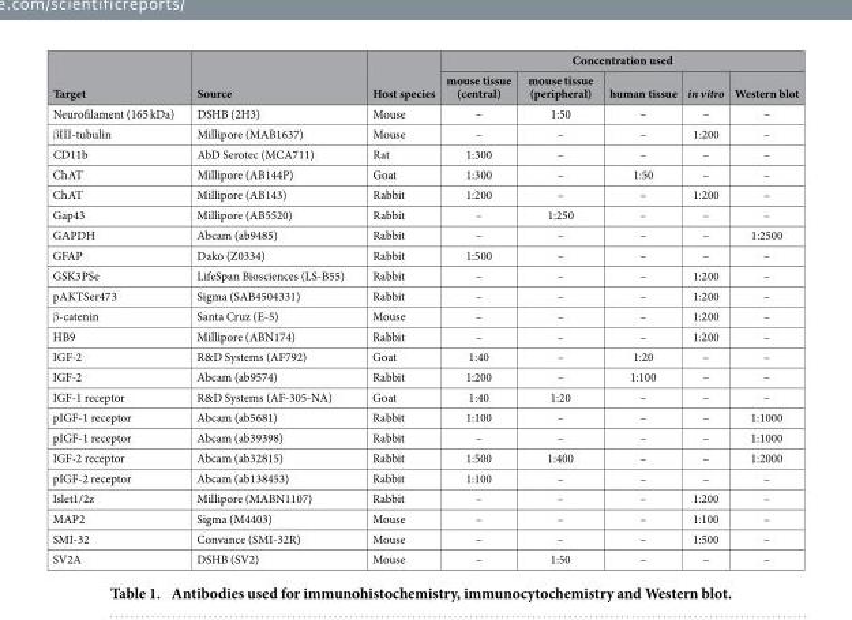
<table><thead><tr><td rowspan="2">Target</td><td rowspan="2">Source</td><td rowspan="2">Host species</td><td colspan="5">Concentration used</td></tr><tr><td>mouse tissue (central)</td><td>mouse tissue (peripheral)</td><td>human tissue</td><td>in vitro</td><td>Western blot</td></tr></thead><tbody><tr><td>Neurofilament (165 kDa)</td><td>DSHB (2H3)</td><td>Mouse</td><td>–</td><td>1:50</td><td>–</td><td>–</td><td>–</td></tr><tr><td>β III-tubulin</td><td>Millipore (MAB1637)</td><td>Mouse</td><td>–</td><td>–</td><td>–</td><td>1:200</td><td>–</td></tr><tr><td>CD11b</td><td>AbD Serotec (MCA711)</td><td>Rat</td><td>1:300</td><td>–</td><td>–</td><td>–</td><td>–</td></tr><tr><td>ChAT</td><td>Millipore (AB144P)</td><td>Goat</td><td>1:300</td><td>–</td><td>1:50</td><td>–</td><td>–</td></tr><tr><td>ChAT</td><td>Millipore (AB143)</td><td>Rabbit</td><td>1:200</td><td>–</td><td>–</td><td>1:200</td><td>–</td></tr><tr><td>Gap43</td><td>Millipore (AB5520)</td><td>Rabbit</td><td>–</td><td>1:250</td><td>–</td><td>–</td><td>–</td></tr><tr><td>GAPDH</td><td>Abcam (ab9485)</td><td>Rabbit</td><td>–</td><td>–</td><td>–</td><td>–</td><td>1:2500</td></tr><tr><td>GFAP</td><td>Dako (Z0334)</td><td>Rabbit</td><td>1:500</td><td>–</td><td>–</td><td>–</td><td>–</td></tr><tr><td>GSK3PSe</td><td>LifeSpan Biosciences (LS-B55)</td><td>Rabbit</td><td>–</td><td>–</td><td>–</td><td>1:200</td><td>–</td></tr><tr><td>pAKTSer473</td><td>Sigma (SAB4504331)</td><td>Rabbit</td><td>–</td><td>–</td><td>–</td><td>1:200</td><td>–</td></tr><tr><td>β -catenin</td><td>Santa Cruz (E-5)</td><td>Mouse</td><td>–</td><td>–</td><td>–</td><td>1:200</td><td>–</td></tr><tr><td>HB9</td><td>Millipore (ABN174)</td><td>Rabbit</td><td>–</td><td>–</td><td>–</td><td>1:200</td><td>–</td></tr><tr><td>IGF-2</td><td>R&amp;D Systems (AF792)</td><td>Goat</td><td>1:40</td><td>–</td><td>1:20</td><td>–</td><td>–</td></tr><tr><td>IGF-2</td><td>Abcam (ab9574)</td><td>Rabbit</td><td>1:200</td><td>–</td><td>1:100</td><td>–</td><td>–</td></tr><tr><td>IGF-1 receptor</td><td>R&amp;D Systems (AF-305-NA)</td><td>Goat</td><td>1:40</td><td>1:20</td><td>–</td><td>–</td><td>–</td></tr><tr><td>pIGF-1 receptor</td><td>Abcam (ab5681)</td><td>Rabbit</td><td>1:100</td><td>–</td><td>–</td><td>–</td><td>1:1000</td></tr><tr><td>pIGF-1 receptor</td><td>Abcam (ab39398)</td><td>Rabbit</td><td>–</td><td>–</td><td>–</td><td>–</td><td>1:1000</td></tr><tr><td>IGF-2 receptor</td><td>Abcam (ab32815)</td><td>Rabbit</td><td>1:500</td><td>1:400</td><td>–</td><td>–</td><td>1:2000</td></tr><tr><td>pIGF-2 receptor</td><td>Abcam (ab138453)</td><td>Rabbit</td><td>1:100</td><td>–</td><td>–</td><td>–</td><td>–</td></tr><tr><td>Islet1/2z</td><td>Millipore (MABN1107)</td><td>Rabbit</td><td>–</td><td>–</td><td>–</td><td>1:200</td><td>–</td></tr><tr><td>MAP2</td><td>Sigma (M4403)</td><td>Mouse</td><td>–</td><td>–</td><td>–</td><td>1:100</td><td>–</td></tr><tr><td>SMI-32</td><td>Convance (SMI-32R)</td><td>Mouse</td><td>–</td><td>–</td><td>–</td><td>1:500</td><td>–</td></tr><tr><td>SV2A</td><td>DSHB (SV2)</td><td>Mouse</td><td>–</td><td>1:50</td><td>–</td><td>–</td><td>–</td></tr></tbody></table>